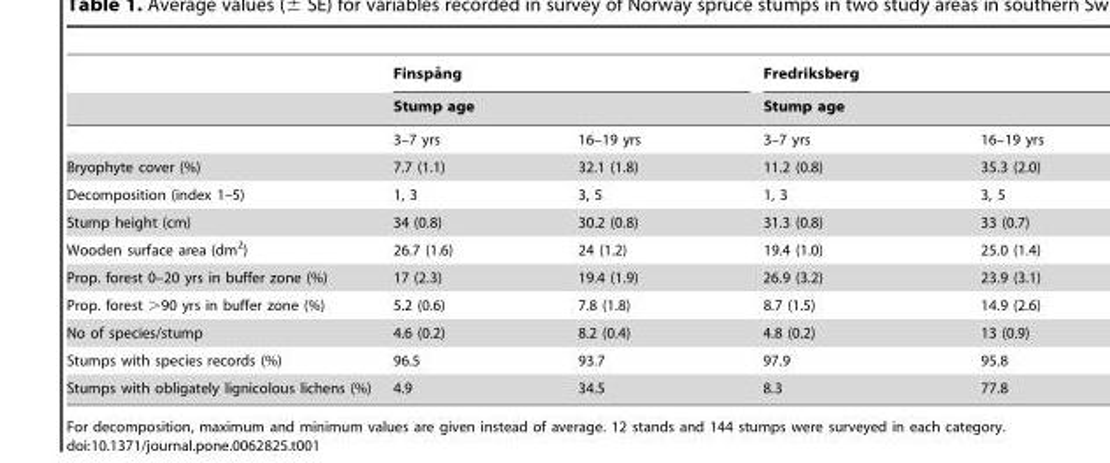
<table><thead><tr><td rowspan="3"></td><td rowspan="2" colspan="2">Finspa˚ng Stump age</td><td rowspan="2" colspan="2">Fredriksberg Stump age</td></tr><tr></tr><tr><td>3–7 yrs</td><td>16–19 yrs</td><td>3–7 yrs</td><td>16–19 yrs</td></tr></thead><tbody><tr><td>Bryophyte cover (%)</td><td>7.7 (1.1)</td><td>32.1 (1.8)</td><td>11.2 (0.8)</td><td>35.3 (2.0)</td></tr><tr><td>Decomposition (index 1–5)</td><td>1, 3</td><td>3, 5</td><td>1, 3</td><td>3, 5</td></tr><tr><td>Stump height (cm)</td><td>34 (0.8)</td><td>30.2 (0.8)</td><td>31.3 (0.8)</td><td>33 (0.7)</td></tr><tr><td>Wooden surface area (dm<sup>2</sup>)</td><td>26.7 (1.6)</td><td>24 (1.2)</td><td>19.4 (1.0)</td><td>25.0 (1.4)</td></tr><tr><td>Prop. forest 0–20 yrs in buffer zone (%)</td><td>17 (2.3)</td><td>19.4 (1.9)</td><td>26.9 (3.2)</td><td>23.9 (3.1)</td></tr><tr><td>Prop. forest &gt;90 yrs in buffer zone (%)</td><td>5.2 (0.6)</td><td>7.8 (1.8)</td><td>8.7 (1.5)</td><td>14.9 (2.6)</td></tr><tr><td>No of species/stump</td><td>4.6 (0.2)</td><td>8.2 (0.4)</td><td>4.8 (0.2)</td><td>13 (0.9)</td></tr><tr><td>Stumps with species records (%)</td><td>96.5</td><td>93.7</td><td>97.9</td><td>95.8</td></tr><tr><td>Stumps with obligately lignicolous lichens (%)</td><td>4.9</td><td>34.5</td><td>8.3</td><td>77.8</td></tr></tbody></table>